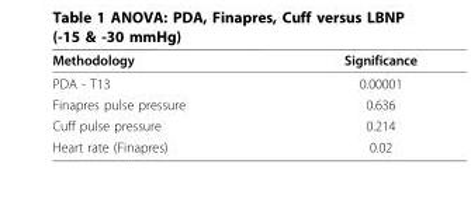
<table><thead><tr><td>Methodology</td><td>Significance</td></tr></thead><tbody><tr><td>PDA - T13</td><td>0.00001</td></tr><tr><td>Finapres pulse pressure</td><td>0.636</td></tr><tr><td>Cuff pulse pressure</td><td>0.214</td></tr><tr><td>Heart rate (Finapres)</td><td>0.02</td></tr></tbody></table>